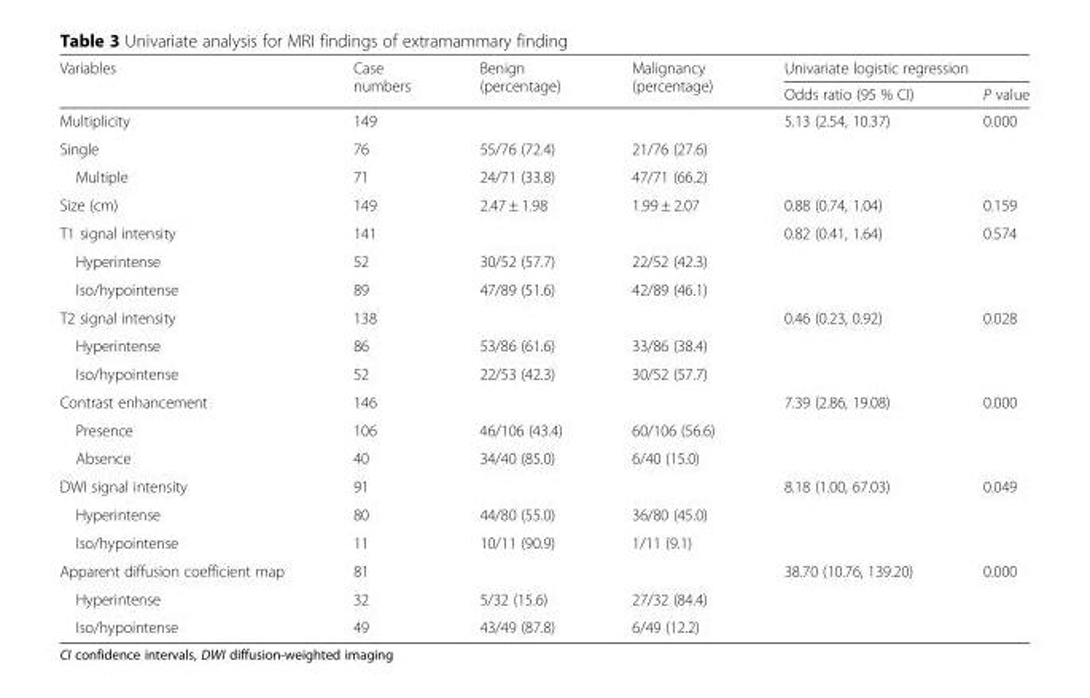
<table><thead><tr><td rowspan="2">Variables</td><td rowspan="2">Case numbers</td><td rowspan="2">Benign (percentage)</td><td rowspan="2">Malignancy (percentage)</td><td colspan="2">Univariate logistic regression</td></tr><tr><td>Odds ratio (95 % CI)</td><td>P value</td></tr></thead><tbody><tr><td>Multiplicity</td><td>149</td><td></td><td></td><td>5.13 (2.54, 10.37)</td><td>0.000</td></tr><tr><td>Single</td><td>76</td><td>55/76 (72.4)</td><td>21/76 (27.6)</td><td></td><td></td></tr><tr><td>Multiple</td><td>71</td><td>24/71 (33.8)</td><td>47/71 (66.2)</td><td></td><td></td></tr><tr><td>Size (cm)</td><td>149</td><td>2.47 ± 1.98</td><td>1.99 ± 2.07</td><td>0.88 (0.74, 1.04)</td><td>0.159</td></tr><tr><td>T1 signal intensity</td><td>141</td><td></td><td></td><td>0.82 (0.41, 1.64)</td><td>0.574</td></tr><tr><td>Hyperintense</td><td>52</td><td>30/52 (57.7)</td><td>22/52 (42.3)</td><td></td><td></td></tr><tr><td>Iso/hypointense</td><td>89</td><td>47/89 (51.6)</td><td>42/89 (46.1)</td><td></td><td></td></tr><tr><td>T2 signal intensity</td><td>138</td><td></td><td></td><td>0.46 (0.23, 0.92)</td><td>0.028</td></tr><tr><td>Hyperintense</td><td>86</td><td>53/86 (61.6)</td><td>33/86 (38.4)</td><td></td><td></td></tr><tr><td>Iso/hypointense</td><td>52</td><td>22/53 (42.3)</td><td>30/52 (57.7)</td><td></td><td></td></tr><tr><td>Contrast enhancement</td><td>146</td><td></td><td></td><td>7.39 (2.86, 19.08)</td><td>0.000</td></tr><tr><td>Presence</td><td>106</td><td>46/106 (43.4)</td><td>60/106 (56.6)</td><td></td><td></td></tr><tr><td>Absence</td><td>40</td><td>34/40 (85.0)</td><td>6/40 (15.0)</td><td></td><td></td></tr><tr><td>DWI signal intensity</td><td>91</td><td></td><td></td><td>8.18 (1.00, 67.03)</td><td>0.049</td></tr><tr><td>Hyperintense</td><td>80</td><td>44/80 (55.0)</td><td>36/80 (45.0)</td><td></td><td></td></tr><tr><td>Iso/hypointense</td><td>11</td><td>10/11 (90.9)</td><td>1/11 (9.1)</td><td></td><td></td></tr><tr><td>Apparent diffusion coefficient map</td><td>81</td><td></td><td></td><td>38.70 (10.76, 139.20)</td><td>0.000</td></tr><tr><td>Hyperintense</td><td>32</td><td>5/32 (15.6)</td><td>27/32 (84.4)</td><td></td><td></td></tr><tr><td>Iso/hypointense</td><td>49</td><td>43/49 (87.8)</td><td>6/49 (12.2)</td><td></td><td></td></tr></tbody></table>